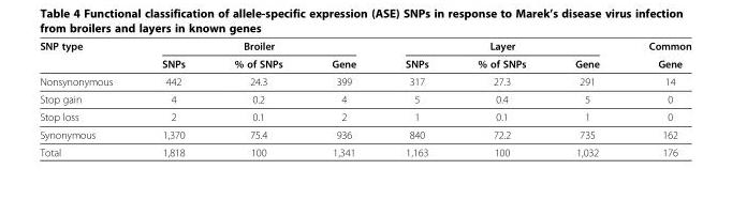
<table><thead><tr><td rowspan="2">SNP type</td><td colspan="3">Broiler</td><td colspan="3">Layer</td><td rowspan="2">Common Gene</td></tr><tr><td>SNPs</td><td>% of SNPs</td><td>Gene</td><td>SNPs</td><td>% of SNPs</td><td>Gene</td></tr></thead><tbody><tr><td>Nonsynonymous</td><td>442</td><td>24.3</td><td>399</td><td>317</td><td>27.3</td><td>291</td><td>14</td></tr><tr><td>Stop gain</td><td>4</td><td>0.2</td><td>4</td><td>5</td><td>0.4</td><td>5</td><td>0</td></tr><tr><td>Stop loss</td><td>2</td><td>0.1</td><td>2</td><td>1</td><td>0.1</td><td>1</td><td>0</td></tr><tr><td>Synonymous</td><td>1,370</td><td>75.4</td><td>936</td><td>840</td><td>72.2</td><td>735</td><td>162</td></tr><tr><td>Total</td><td>1,818</td><td>100</td><td>1,341</td><td>1,163</td><td>100</td><td>1,032</td><td>176</td></tr></tbody></table>